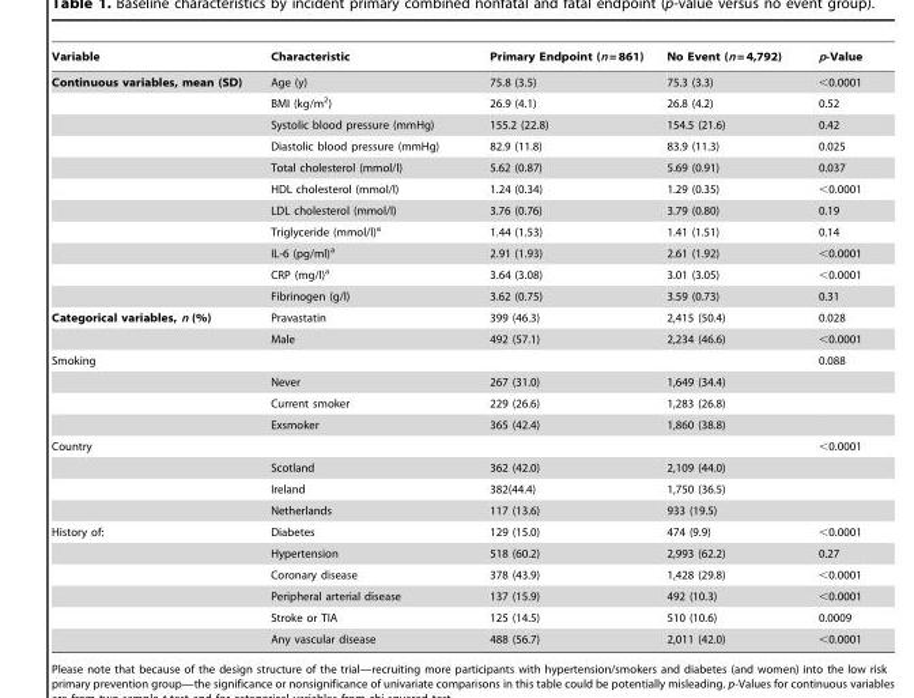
<table><thead><tr><td>Variable</td><td>Characteristic</td><td>Primary Endpoint (n = 861)</td><td>No Event (n = 4,792)</td><td>p-Value</td></tr></thead><tbody><tr><td rowspan="11">Continuous variables, mean (SD)</td><td>Age (y)</td><td>75.8 (3.5)</td><td>75.3 (3.3)</td><td>&lt;0.0001</td></tr><tr><td>BMI (kg/m<sup>2</sup>)</td><td>26.9 (4.1)</td><td>26.8 (4.2)</td><td>0.52</td></tr><tr><td>Systolic blood pressure (mmHg)</td><td>155.2 (22.8)</td><td>154.5 (21.6)</td><td>0.42</td></tr><tr><td>Diastolic blood pressure (mmHg)</td><td>82.9 (11.8)</td><td>83.9 (11.3)</td><td>0.025</td></tr><tr><td>Total cholesterol (mmol/l)</td><td>5.62 (0.87)</td><td>5.69 (0.91)</td><td>0.037</td></tr><tr><td>HDL cholesterol (mmol/l)</td><td>1.24 (0.34)</td><td>1.29 (0.35)</td><td>&lt;0.0001</td></tr><tr><td>LDL cholesterol (mmol/l)</td><td>3.76 (0.76)</td><td>3.79 (0.80)</td><td>0.19</td></tr><tr><td>Triglyceride (mmol/l)<sup>a</sup></td><td>1.44 (1.53)</td><td>1.41 (1.51)</td><td>0.14</td></tr><tr><td>IL-6 (pg/ml)<sup>a</sup></td><td>2.91 (1.93)</td><td>2.61 (1.92)</td><td>&lt;0.0001</td></tr><tr><td>CRP (mg/l)<sup>a</sup></td><td>3.64 (3.08)</td><td>3.01 (3.05)</td><td>&lt;0.0001</td></tr><tr><td>Fibrinogen (g/l)</td><td>3.62 (0.75)</td><td>3.59 (0.73)</td><td>0.31</td></tr><tr><td rowspan="2">Categorical variables, n (%)</td><td>Pravastatin</td><td>399 (46.3)</td><td>2,415 (50.4)</td><td>0.028</td></tr><tr><td>Male</td><td>492 (57.1)</td><td>2,234 (46.6)</td><td>&lt;0.0001</td></tr><tr><td rowspan="4">Smoking</td><td></td><td></td><td></td><td>0.088</td></tr><tr><td>Never</td><td>267 (31.0)</td><td>1,649 (34.4)</td><td></td></tr><tr><td>Current smoker</td><td>229 (26.6)</td><td>1,283 (26.8)</td><td></td></tr><tr><td>Exsmoker</td><td>365 (42.4)</td><td>1,860 (38.8)</td><td></td></tr><tr><td rowspan="4">Country</td><td></td><td></td><td></td><td>&lt;0.0001</td></tr><tr><td>Scotland</td><td>362 (42.0)</td><td>2,109 (44.0)</td><td></td></tr><tr><td>Ireland</td><td>382(44.4)</td><td>1,750 (36.5)</td><td></td></tr><tr><td>Netherlands</td><td>117 (13.6)</td><td>933 (19.5)</td><td></td></tr><tr><td rowspan="6">History of:</td><td>Diabetes</td><td>129 (15.0)</td><td>474 (9.9)</td><td>&lt;0.0001</td></tr><tr><td>Hypertension</td><td>518 (60.2)</td><td>2,993 (62.2)</td><td>0.27</td></tr><tr><td>Coronary disease</td><td>378 (43.9)</td><td>1,428 (29.8)</td><td>&lt;0.0001</td></tr><tr><td>Peripheral arterial disease</td><td>137 (15.9)</td><td>492 (10.3)</td><td>&lt;0.0001</td></tr><tr><td>Stroke or TIA</td><td>125 (14.5)</td><td>510 (10.6)</td><td>0.0009</td></tr><tr><td>Any vascular disease</td><td>488 (56.7)</td><td>2,011 (42.0)</td><td>&lt;0.0001</td></tr></tbody></table>